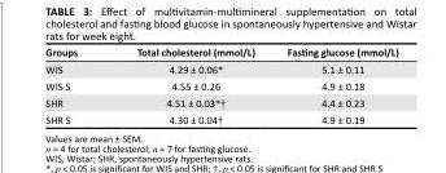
<table><thead><tr><td>Groups</td><td>Total cholesterol (mmol/L)</td><td>Fasting glucose (mmol/L)</td></tr></thead><tbody><tr><td>WIS</td><td>4.29 ± 0.06*</td><td>5.1 ± 0.11</td></tr><tr><td>WIS S</td><td>4.55 ± 0.26</td><td>4.9 ± 0.18</td></tr><tr><td>SHR</td><td>4.51 ± 0.03*†</td><td>4.4 ± 0.23</td></tr><tr><td>SHR S</td><td>4.30 ± 0.04†</td><td>4.9 ± 0.19</td></tr></tbody></table>